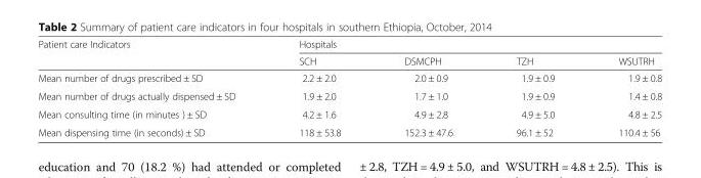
<table><thead><tr><td rowspan="2">Patient care Indicators</td><td colspan="4">Hospitals</td></tr><tr><td>SCH</td><td>DSMCPH</td><td>TZH</td><td>WSUTRH</td></tr></thead><tbody><tr><td>Mean number of drugs prescribed ± SD</td><td>2.2 ± 2.0</td><td>2.0 ± 0.9</td><td>1.9 ± 0.9</td><td>1.9 ± 0.8</td></tr><tr><td>Mean number of drugs actually dispensed ± SD</td><td>1.9 ± 2.0</td><td>1.7 ± 1.0</td><td>1.9 ± 0.9</td><td>1.4 ± 0.8</td></tr><tr><td>Mean consulting time (in minutes ) ± SD</td><td>4.2 ± 1.6</td><td>4.9 ± 2.8</td><td>4.9 ± 5.0</td><td>4.8 ± 2.5</td></tr><tr><td>Mean dispensing time (in seconds) ± SD</td><td>118 ± 53.8</td><td>152.3 ± 47.6</td><td>96.1 ± 52</td><td>110.4 ± 56</td></tr></tbody></table>